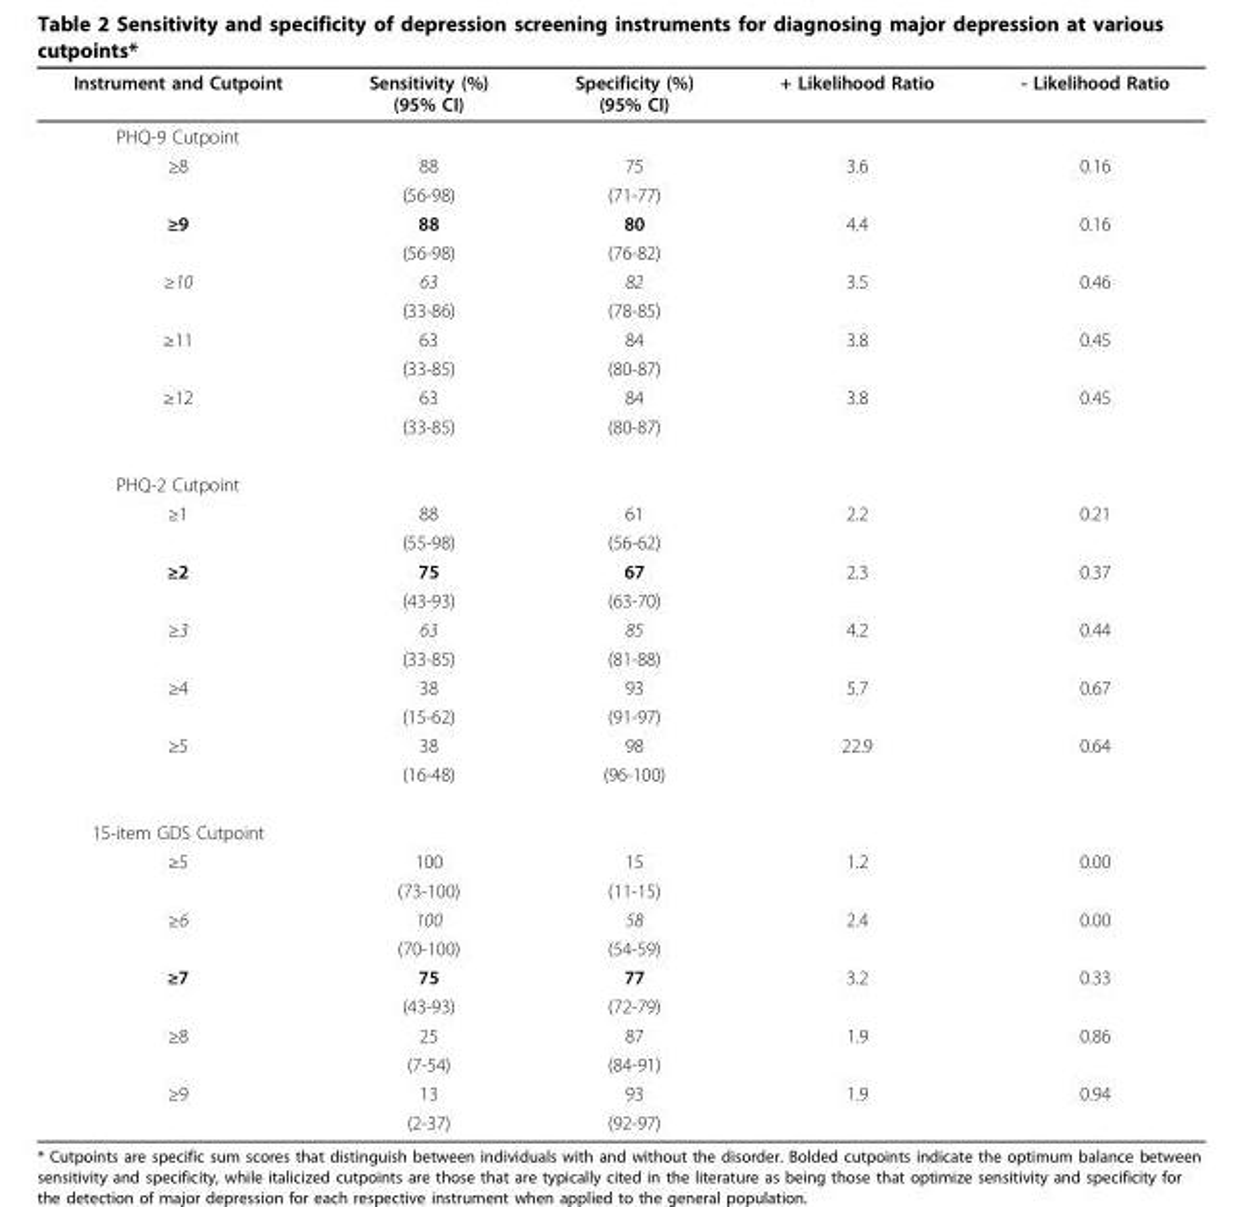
<table><thead><tr><td>Instrument and Cutpoint</td><td>Sensitivity (%) (95% CI)</td><td>Specificity (%) (95% CI)</td><td>+ Likelihood Ratio</td><td>- Likelihood Ratio</td></tr></thead><tbody><tr><td colspan="5">PHQ-9 Cutpoint</td></tr><tr><td rowspan="2">≥8</td><td>88</td><td>75</td><td>3.6</td><td>0.16</td></tr><tr><td>(56-98)</td><td>(71-77)</td><td></td><td></td></tr><tr><td rowspan="2">≥9</td><td>88</td><td>80</td><td>4.4</td><td>0.16</td></tr><tr><td>(56-98)</td><td>(76-82)</td><td></td><td></td></tr><tr><td rowspan="2">≥10</td><td>63</td><td>82</td><td>3.5</td><td>0.46</td></tr><tr><td>(33-86)</td><td>(78-85)</td><td></td><td></td></tr><tr><td rowspan="2">≥11</td><td>63</td><td>84</td><td>3.8</td><td>0.45</td></tr><tr><td>(33-85)</td><td>(80-87)</td><td></td><td></td></tr><tr><td rowspan="2">≥12</td><td>63</td><td>84</td><td>3.8</td><td>0.45</td></tr><tr><td>(33-85)</td><td>(80-87)</td><td></td><td></td></tr><tr><td colspan="5">PHQ-2 Cutpoint</td></tr><tr><td rowspan="2">≥1</td><td>88</td><td>61</td><td>2.2</td><td>0.21</td></tr><tr><td>(55-98)</td><td>(56-62)</td><td></td><td></td></tr><tr><td rowspan="2">≥2</td><td>75</td><td>67</td><td>2.3</td><td>0.37</td></tr><tr><td>(43-93)</td><td>(63-70)</td><td></td><td></td></tr><tr><td rowspan="2">≥3</td><td>63</td><td>85</td><td>4.2</td><td>0.44</td></tr><tr><td>(33-85)</td><td>(81-88)</td><td></td><td></td></tr><tr><td rowspan="2">≥4</td><td>38</td><td>93</td><td>5.7</td><td>0.67</td></tr><tr><td>(15-62)</td><td>(91-97)</td><td></td><td></td></tr><tr><td rowspan="2">≥5</td><td>38</td><td>98</td><td>22.9</td><td>0.64</td></tr><tr><td>(16-48)</td><td>(96-100)</td><td></td><td></td></tr><tr><td colspan="5">15-item GDS Cutpoint</td></tr><tr><td rowspan="2">≥5</td><td>100</td><td>15</td><td>1.2</td><td>0.00</td></tr><tr><td>(73-100)</td><td>(11-15)</td><td></td><td></td></tr><tr><td rowspan="2">≥6</td><td>100</td><td>58</td><td>2.4</td><td>0.00</td></tr><tr><td>(70-100)</td><td>(54-59)</td><td></td><td></td></tr><tr><td rowspan="2">≥7</td><td>75</td><td>77</td><td>3.2</td><td>0.33</td></tr><tr><td>(43-93)</td><td>(72-79)</td><td></td><td></td></tr><tr><td rowspan="2">≥8</td><td>25</td><td>87</td><td>1.9</td><td>0.86</td></tr><tr><td>(7-54)</td><td>(84-91)</td><td></td><td></td></tr><tr><td rowspan="2">≥9</td><td>13</td><td>93</td><td>1.9</td><td>0.94</td></tr><tr><td>(2-37)</td><td>(92-97)</td><td></td><td></td></tr></tbody></table>